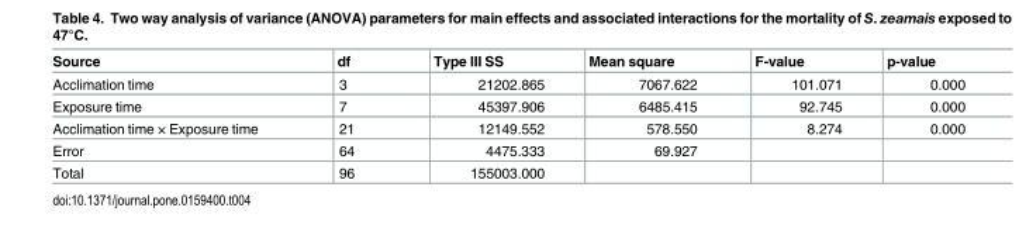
<table><thead><tr><td>Source</td><td>df</td><td>Type III SS</td><td>Mean square</td><td>F-value</td><td>p-value</td></tr></thead><tbody><tr><td>Acclimation time</td><td>3</td><td>21202.865</td><td>7067.622</td><td>101.071</td><td>0.000</td></tr><tr><td>Exposure time</td><td>7</td><td>45397.906</td><td>6485.415</td><td>92.745</td><td>0.000</td></tr><tr><td>Acclimation time × Exposure time</td><td>21</td><td>12149.552</td><td>578.550</td><td>8.274</td><td>0.000</td></tr><tr><td>Error</td><td>64</td><td>4475.333</td><td>69.927</td><td></td><td></td></tr><tr><td>Total</td><td>96</td><td>155003.000</td><td></td><td></td><td></td></tr></tbody></table>